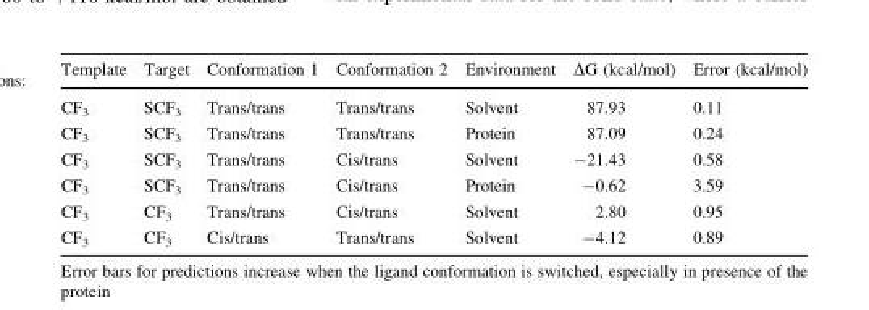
<table><thead><tr><td>Template</td><td>Target</td><td>Conformation 1</td><td>Conformation 2</td><td>Environment</td><td>ΔG (kcal/mol)</td><td>Error (kcal/mol)</td></tr></thead><tbody><tr><td>CF<sub>3</sub></td><td>SCF<sub>3</sub></td><td>Trans/trans</td><td>Trans/trans</td><td>Solvent</td><td>87.93</td><td>0.11</td></tr><tr><td>CF<sub>3</sub></td><td>SCF<sub>3</sub></td><td>Trans/trans</td><td>Trans/trans</td><td>Protein</td><td>87.09</td><td>0.24</td></tr><tr><td>CF<sub>3</sub></td><td>SCF<sub>3</sub></td><td>Trans/trans</td><td>Cis/trans</td><td>Solvent</td><td>-21.43</td><td>0.58</td></tr><tr><td>CF<sub>3</sub></td><td>SCF<sub>3</sub></td><td>Trans/trans</td><td>Cis/trans</td><td>Protein</td><td>-0.62</td><td>3.59</td></tr><tr><td>CF<sub>3</sub></td><td>CF<sub>3</sub></td><td>Trans/trans</td><td>Cis/trans</td><td>Solvent</td><td>2.80</td><td>0.95</td></tr><tr><td>CF<sub>3</sub></td><td>CF<sub>3</sub></td><td>Cis/trans</td><td>Trans/trans</td><td>Solvent</td><td>-4.12</td><td>0.89</td></tr></tbody></table>